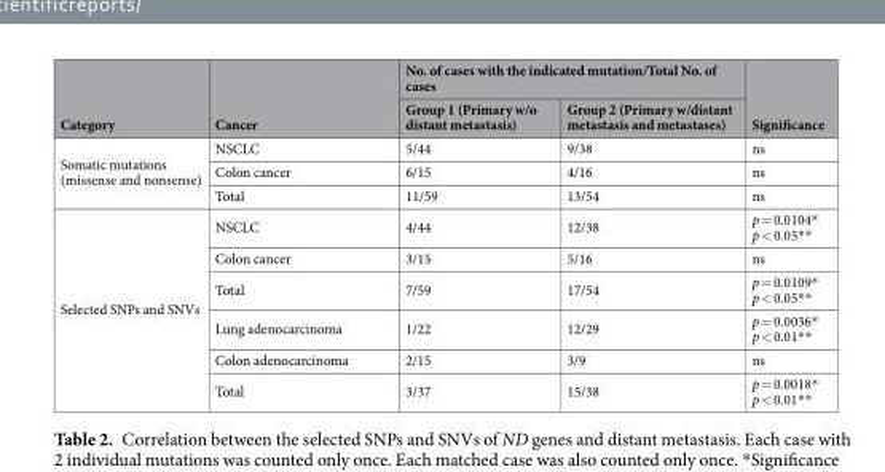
<table><thead><tr><td rowspan="2">Category</td><td rowspan="2">Cancer</td><td colspan="2">No. of cases with the indicated mutation/Total No. of cases</td><td rowspan="2">Significance</td></tr><tr><td>Group 1 (Primary w/o distant metastasis)</td><td>Group 2 (Primary w/distant metastasis and metastases)</td></tr></thead><tbody><tr><td rowspan="3">Somatic mutations (missense and nonsense)</td><td>NSCLC</td><td>5/44</td><td>9/38</td><td>ns</td></tr><tr><td>Colon cancer</td><td>6/15</td><td>4/16</td><td>ns</td></tr><tr><td>Total</td><td>11/59</td><td>13/54</td><td>ns</td></tr><tr><td rowspan="6">Selected SNPs and SNVs</td><td>NSCLC</td><td>4/44</td><td>12/38</td><td>p = 0.0104* p &lt; 0.05**</td></tr><tr><td>Colon cancer</td><td>3/15</td><td>5/16</td><td>ns</td></tr><tr><td>Total</td><td>7/59</td><td>17/54</td><td>p = 0.0109* p &lt; 0.05**</td></tr><tr><td>Lung adenocarcinoma</td><td>1/22</td><td>12/29</td><td>p = 0.0036* p &lt; 0.01**</td></tr><tr><td>Colon adenocarcinoma</td><td>2/15</td><td>3/9</td><td>ns</td></tr><tr><td>Total</td><td>3/37</td><td>15/38</td><td>p = 0.0018* p &lt; 0.01**</td></tr></tbody></table>